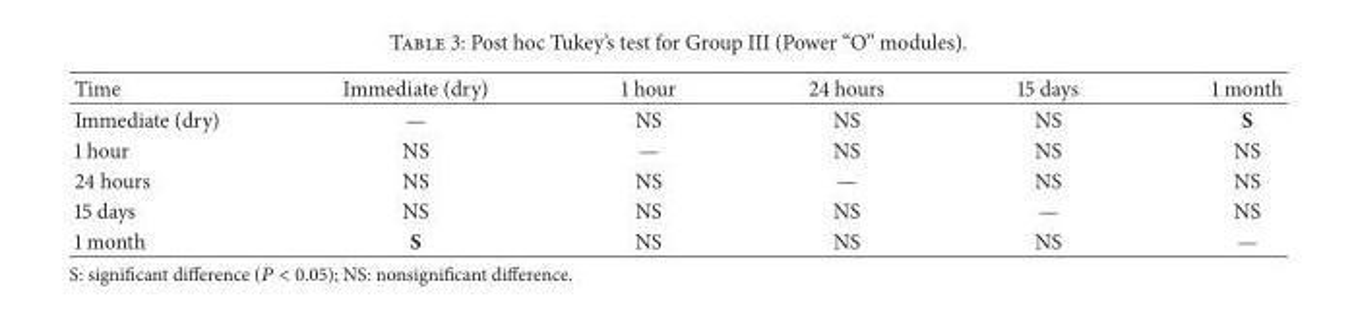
<table><thead><tr><td>Time</td><td>Immediate (dry)</td><td>1 hour</td><td>24 hours</td><td>15 days</td><td>1 month</td></tr></thead><tbody><tr><td>Immediate (dry)</td><td>—</td><td>NS</td><td>NS</td><td>NS</td><td>S</td></tr><tr><td>1 hour</td><td>NS</td><td>—</td><td>NS</td><td>NS</td><td>NS</td></tr><tr><td>24 hours</td><td>NS</td><td>NS</td><td>—</td><td>NS</td><td>NS</td></tr><tr><td>15 days</td><td>NS</td><td>NS</td><td>NS</td><td>—</td><td>NS</td></tr><tr><td>1 month</td><td>S</td><td>NS</td><td>NS</td><td>NS</td><td>—</td></tr></tbody></table>